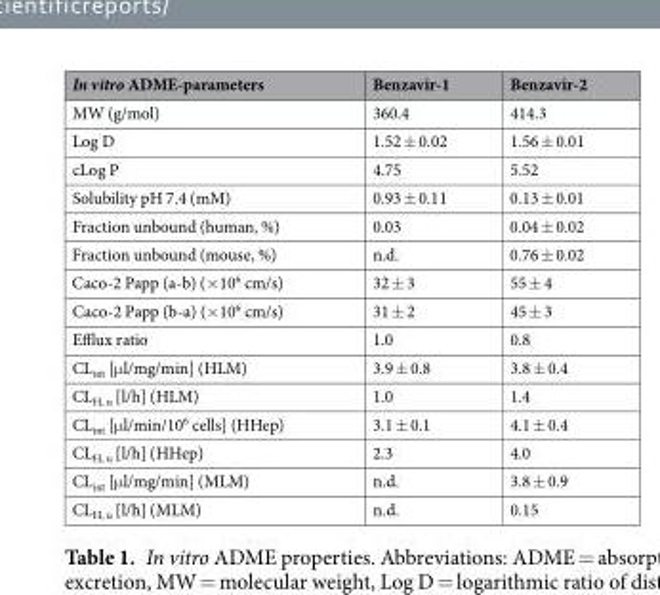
<table><thead><tr><td>In vitro ADME-parameters</td><td>Benzavir-1</td><td>Benzavir-2</td></tr></thead><tbody><tr><td>MW (g/mol)</td><td>360.4</td><td>414.3</td></tr><tr><td>Log D</td><td>1.52 ± 0.02</td><td>1.56 ± 0.01</td></tr><tr><td>cLog P</td><td>4.75</td><td>5.52</td></tr><tr><td>Solubility pH 7.4 (mM)</td><td>0.93 ± 0.11</td><td>0.13 ± 0.01</td></tr><tr><td>Fraction unbound (human, %)</td><td>0.03</td><td>0.04 ± 0.02</td></tr><tr><td>Fraction unbound (mouse, %)</td><td>n.d.</td><td>0.76 ± 0.02</td></tr><tr><td>Caco-2 Papp (a-b) (×10<sup>6</sup> cm/s)</td><td>32 ± 3</td><td>55 ± 4</td></tr><tr><td>Caco-2 Papp (b-a) (×10<sup>6</sup> cm/s)</td><td>31 ± 2</td><td>45 ± 3</td></tr><tr><td>Efflux ratio</td><td>1.0</td><td>0.8</td></tr><tr><td>CL<sub>int</sub> [μl/mg/min] (HLM)</td><td>3.9 ± 0.8</td><td>3.8 ± 0.4</td></tr><tr><td>CL<sub>H, u</sub> [l/h] (HLM)</td><td>1.0</td><td>1.4</td></tr><tr><td>CL<sub>int</sub> [μl/min/10<sup>6</sup> cells] (HHep)</td><td>3.1 ± 0.1</td><td>4.1 ± 0.4</td></tr><tr><td>CL<sub>H, u</sub> [l/h] (HHep)</td><td>2.3</td><td>4.0</td></tr><tr><td>CL<sub>int</sub> [μl/mg/min] (MLM)</td><td>n.d.</td><td>3.8 ± 0.9</td></tr><tr><td>CL<sub>H, u</sub> [l/h] (MLM)</td><td>n.d.</td><td>0.15</td></tr></tbody></table>